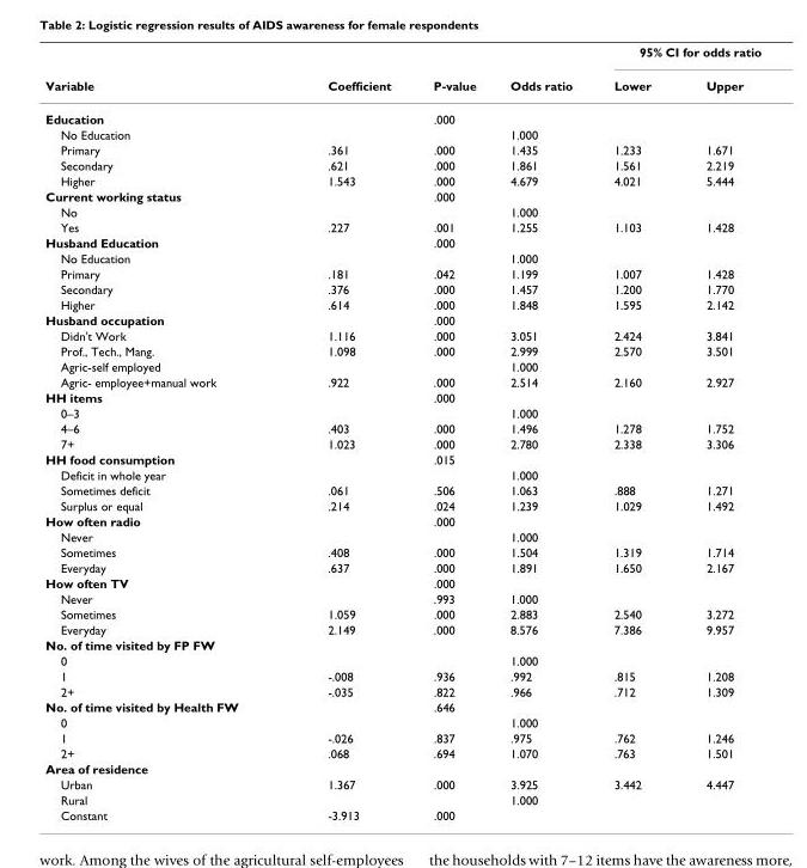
<table><thead><tr><td rowspan="2">Variable</td><td rowspan="2">Coefficient</td><td rowspan="2">P-value</td><td rowspan="2">Odds ratio</td><td colspan="2">95% CI for odds ratio</td></tr><tr><td>Lower</td><td>Upper</td></tr></thead><tbody><tr><td>Education</td><td></td><td>.000</td><td></td><td></td><td></td></tr><tr><td>No Education</td><td></td><td></td><td>1.000</td><td></td><td></td></tr><tr><td>Primary</td><td>.361</td><td>.000</td><td>1.435</td><td>1.233</td><td>1.671</td></tr><tr><td>Secondary</td><td>.621</td><td>.000</td><td>1.861</td><td>1.561</td><td>2.219</td></tr><tr><td>Higher</td><td>1.543</td><td>.000</td><td>4.679</td><td>4.021</td><td>5.444</td></tr><tr><td>Current working status</td><td></td><td>.000</td><td></td><td></td><td></td></tr><tr><td>No</td><td></td><td></td><td>1.000</td><td></td><td></td></tr><tr><td>Yes</td><td>.227</td><td>.001</td><td>1.255</td><td>1.103</td><td>1.428</td></tr><tr><td>Husband Education</td><td></td><td>.000</td><td></td><td></td><td></td></tr><tr><td>No Education</td><td></td><td></td><td>1.000</td><td></td><td></td></tr><tr><td>Primary</td><td>.181</td><td>.042</td><td>1.199</td><td>1.007</td><td>1.428</td></tr><tr><td>Secondary</td><td>.376</td><td>.000</td><td>1.457</td><td>1.200</td><td>1.770</td></tr><tr><td>Higher</td><td>.614</td><td>.000</td><td>1.848</td><td>1.595</td><td>2.142</td></tr><tr><td>Husband occupation</td><td></td><td>.000</td><td></td><td></td><td></td></tr><tr><td>Didn&#x27;t Work</td><td>1.116</td><td>.000</td><td>3.051</td><td>2.424</td><td>3.841</td></tr><tr><td>Prof., Tech., Mang.</td><td>1.098</td><td>.000</td><td>2.999</td><td>2.570</td><td>3.501</td></tr><tr><td>Agric-self employed</td><td></td><td></td><td>1.000</td><td></td><td></td></tr><tr><td>Agric- employee+manual work</td><td>.922</td><td>.000</td><td>2.514</td><td>2.160</td><td>2.927</td></tr><tr><td>HH items</td><td></td><td>.000</td><td></td><td></td><td></td></tr><tr><td>0–3</td><td></td><td></td><td>1.000</td><td></td><td></td></tr><tr><td>4–6</td><td>.403</td><td>.000</td><td>1.496</td><td>1.278</td><td>1.752</td></tr><tr><td>7+</td><td>1.023</td><td>.000</td><td>2.780</td><td>2.338</td><td>3.306</td></tr><tr><td>HH food consumption</td><td></td><td>.015</td><td></td><td></td><td></td></tr><tr><td>Deficit in whole year</td><td></td><td></td><td>1.000</td><td></td><td></td></tr><tr><td>Sometimes deficit</td><td>.061</td><td>.506</td><td>1.063</td><td>.888</td><td>1.271</td></tr><tr><td>Surplus or equal</td><td>.214</td><td>.024</td><td>1.239</td><td>1.029</td><td>1.492</td></tr><tr><td>How often radio</td><td></td><td>.000</td><td></td><td></td><td></td></tr><tr><td>Never</td><td></td><td></td><td>1.000</td><td></td><td></td></tr><tr><td>Sometimes</td><td>.408</td><td>.000</td><td>1.504</td><td>1.319</td><td>1.714</td></tr><tr><td>Everyday</td><td>.637</td><td>.000</td><td>1.891</td><td>1.650</td><td>2.167</td></tr><tr><td>How often TV</td><td></td><td>.000</td><td></td><td></td><td></td></tr><tr><td>Never</td><td></td><td>.993</td><td>1.000</td><td></td><td></td></tr><tr><td>Sometimes</td><td>1.059</td><td>.000</td><td>2.883</td><td>2.540</td><td>3.272</td></tr><tr><td>Everyday</td><td>2.149</td><td>.000</td><td>8.576</td><td>7.386</td><td>9.957</td></tr><tr><td colspan="6">No. of time visited by FP FW</td></tr><tr><td>0</td><td></td><td></td><td>1.000</td><td></td><td></td></tr><tr><td>1</td><td>-.008</td><td>.936</td><td>.992</td><td>.815</td><td>1.208</td></tr><tr><td>2+</td><td>-.035</td><td>.822</td><td>.966</td><td>.712</td><td>1.309</td></tr><tr><td>No. of time visited by Health FW</td><td></td><td>.646</td><td></td><td></td><td></td></tr><tr><td>0</td><td></td><td></td><td>1.000</td><td></td><td></td></tr><tr><td>1</td><td>-.026</td><td>.837</td><td>.975</td><td>.762</td><td>1.246</td></tr><tr><td>2+</td><td>.068</td><td>.694</td><td>1.070</td><td>.763</td><td>1.501</td></tr><tr><td colspan="6">Area of residence</td></tr><tr><td>Urban</td><td>1.367</td><td>.000</td><td>3.925</td><td>3.442</td><td>4.447</td></tr><tr><td>Rural</td><td></td><td></td><td>1.000</td><td></td><td></td></tr><tr><td>Constant</td><td>-3.913</td><td>.000</td><td></td><td></td><td></td></tr></tbody></table>